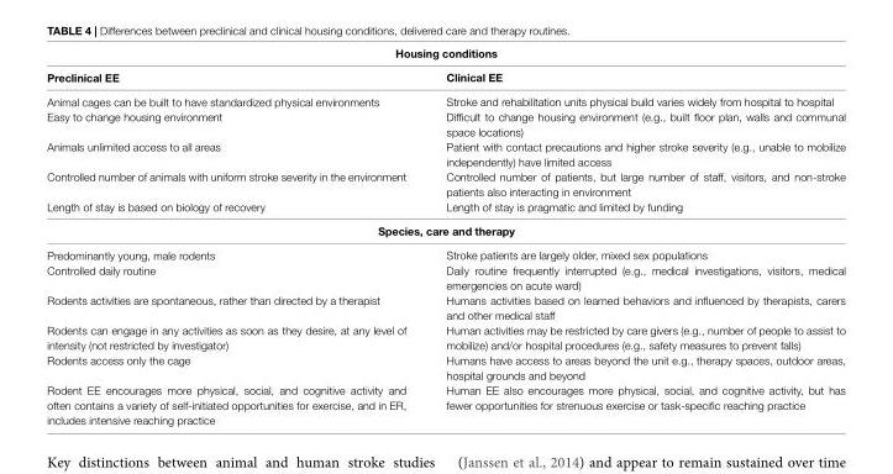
<table><thead><tr><td colspan="2">Housing conditions</td></tr><tr><td>Preclinical EE</td><td>Clinical EE</td></tr></thead><tbody><tr><td>Animal cages can be built to have standardized physical environments</td><td>Stroke and rehabilitation units physical build varies widely from hospital to hospital</td></tr><tr><td>Easy to change housing environment</td><td>Difficult to change housing environment (e.g., built floor plan, walls and communal space locations)</td></tr><tr><td>Animals unlimited access to all areas</td><td>Patient with contact precautions and higher stroke severity (e.g., unable to mobilize independently) have limited access</td></tr><tr><td>Controlled number of animals with uniform stroke severity in the environment</td><td>Controlled number of patients, but large number of staff, visitors, and non-stroke patients also interacting in environment</td></tr><tr><td>Length of stay is based on biology of recovery</td><td>Length of stay is pragmatic and limited by funding</td></tr><tr><td colspan="2">Species, care and therapy</td></tr><tr><td>Predominantly young, male rodents</td><td>Stroke patients are largely older, mixed sex populations</td></tr><tr><td>Controlled daily routine</td><td>Daily routine frequently interrupted (e.g., medical investigations, visitors, medical emergencies on acute ward)</td></tr><tr><td>Rodents activities are spontaneous, rather than directed by a therapist</td><td>Humans activities based on learned behaviors and influenced by therapists, carers and other medical staff</td></tr><tr><td>Rodents can engage in any activities as soon as they desire, at any level of intensity (not restricted by investigator)</td><td>Human activities may be restricted by care givers (e.g., number of people to assist to mobilize) and/or hospital procedures (e.g., safety measures to prevent falls)</td></tr><tr><td>Rodents access only the cage</td><td>Humans have access to areas beyond the unit e.g., therapy spaces, outdoor areas, hospital grounds and beyond</td></tr><tr><td>Rodent EE encourages more physical, social, and cognitive activity and often contains a variety of self-initiated opportunities for exercise, and in ER, includes intensive reaching practice</td><td>Human EE also encourages more physical, social, and cognitive activity, but has fewer opportunities for strenuous exercise or task-specific reaching practice</td></tr></tbody></table>